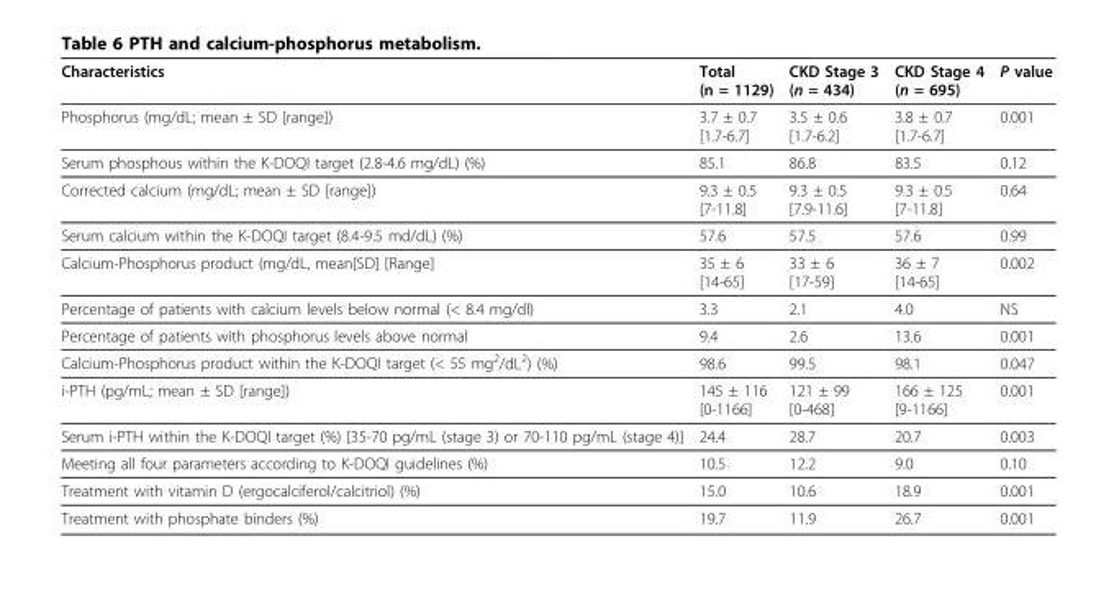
<table><thead><tr><td>Characteristics</td><td>Total (n = 1129)</td><td>CKD Stage 3 (n = 434)</td><td>CKD Stage 4 (n = 695)</td><td>P value</td></tr></thead><tbody><tr><td>Phosphorus (mg/dL; mean ± SD [range])</td><td>3.7 ± 0.7 [1.7-6.7]</td><td>3.5 ± 0.6 [1.7-6.2]</td><td>3.8 ± 0.7 [1.7-6.7]</td><td>0.001</td></tr><tr><td>Serum phosphous within the K-DOQI target (2.8-4.6 mg/dL) (%)</td><td>85.1</td><td>86.8</td><td>83.5</td><td>0.12</td></tr><tr><td>Corrected calcium (mg/dL; mean ± SD [range])</td><td>9.3 ± 0.5 [7-11.8]</td><td>9.3 ± 0.5 [7.9-11.6]</td><td>9.3 ± 0.5 [7-11.8]</td><td>0.64</td></tr><tr><td>Serum calcium within the K-DOQI target (8.4-9.5 md/dL) (%)</td><td>57.6</td><td>57.5</td><td>57.6</td><td>0.99</td></tr><tr><td>Calcium-Phosphorus product (mg/dL, mean[SD] [Range]</td><td>35 ± 6 [14-65]</td><td>33 ± 6 [17-59]</td><td>36 ± 7 [14-65]</td><td>0.002</td></tr><tr><td>Percentage of patients with calcium levels below normal (&lt; 8.4 mg/dl)</td><td>3.3</td><td>2.1</td><td>4.0</td><td>NS</td></tr><tr><td>Percentage of patients with phosphorus levels above normal</td><td>9.4</td><td>2.6</td><td>13.6</td><td>0.001</td></tr><tr><td>Calcium-Phosphorus product within the K-DOQI target (&lt; 55 mg<sup>2</sup>/dL<sup>2</sup>) (%)</td><td>98.6</td><td>99.5</td><td>98.1</td><td>0.047</td></tr><tr><td>i-PTH (pg/mL; mean ± SD [range])</td><td>145 ± 116 [0-1166]</td><td>121 ± 99 [0-468]</td><td>166 ± 125 [9-1166]</td><td>0.001</td></tr><tr><td>Serum i-PTH within the K-DOQI target (%) [35-70 pg/mL (stage 3) or 70-110 pg/mL (stage 4)]</td><td>24.4</td><td>28.7</td><td>20.7</td><td>0.003</td></tr><tr><td>Meeting all four parameters according to K-DOQI guidelines (%)</td><td>10.5</td><td>12.2</td><td>9.0</td><td>0.10</td></tr><tr><td>Treatment with vitamin D (ergocalciferol/calcitriol) (%)</td><td>15.0</td><td>10.6</td><td>18.9</td><td>0.001</td></tr><tr><td>Treatment with phosphate binders (%)</td><td>19.7</td><td>11.9</td><td>26.7</td><td>0.001</td></tr></tbody></table>